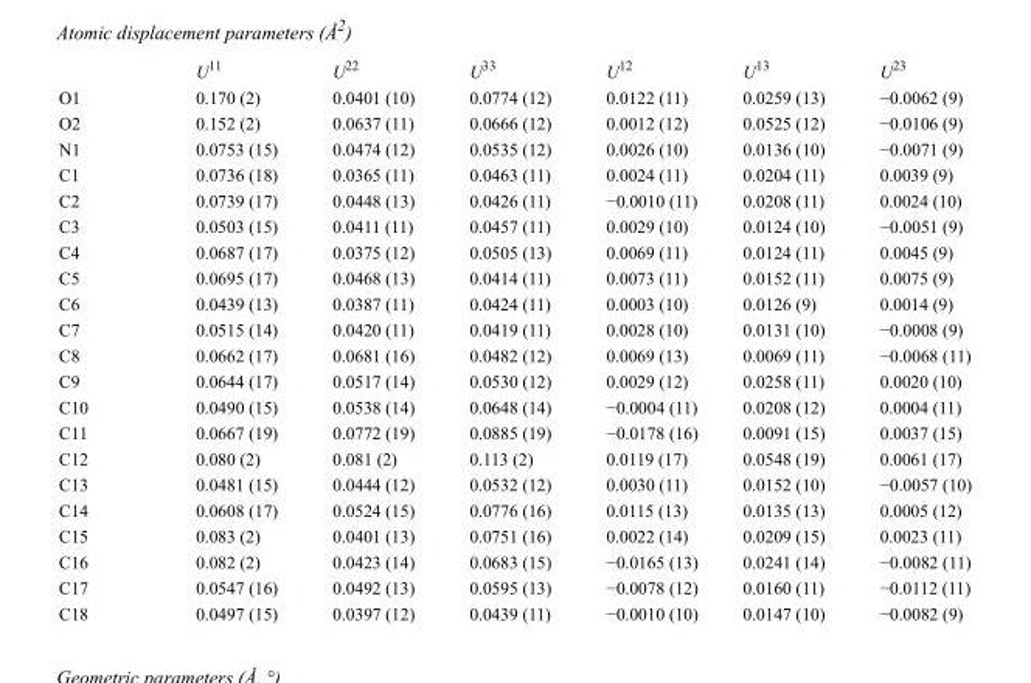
<table><thead><tr><td></td><td>U<sup>11</sup></td><td>U<sup>22</sup></td><td>U<sup>33</sup></td><td>U<sup>12</sup></td><td>U<sup>13</sup></td><td>U<sup>23</sup></td></tr></thead><tbody><tr><td>O1</td><td>0.170 (2)</td><td>0.0401 (10)</td><td>0.0774 (12)</td><td>0.0122 (11)</td><td>0.0259 (13)</td><td>−0.0062 (9)</td></tr><tr><td>O2</td><td>0.152 (2)</td><td>0.0637 (11)</td><td>0.0666 (12)</td><td>0.0012 (12)</td><td>0.0525 (12)</td><td>−0.0106 (9)</td></tr><tr><td>N1</td><td>0.0753 (15)</td><td>0.0474 (12)</td><td>0.0535 (12)</td><td>0.0026 (10)</td><td>0.0136 (10)</td><td>−0.0071 (9)</td></tr><tr><td>C1</td><td>0.0736 (18)</td><td>0.0365 (11)</td><td>0.0463 (11)</td><td>0.0024 (11)</td><td>0.0204 (11)</td><td>0.0039 (9)</td></tr><tr><td>C2</td><td>0.0739 (17)</td><td>0.0448 (13)</td><td>0.0426 (11)</td><td>−0.0010 (11)</td><td>0.0208 (11)</td><td>0.0024 (10)</td></tr><tr><td>C3</td><td>0.0503 (15)</td><td>0.0411 (11)</td><td>0.0457 (11)</td><td>0.0029 (10)</td><td>0.0124 (10)</td><td>−0.0051 (9)</td></tr><tr><td>C4</td><td>0.0687 (17)</td><td>0.0375 (12)</td><td>0.0505 (13)</td><td>0.0069 (11)</td><td>0.0124 (11)</td><td>0.0045 (9)</td></tr><tr><td>C5</td><td>0.0695 (17)</td><td>0.0468 (13)</td><td>0.0414 (11)</td><td>0.0073 (11)</td><td>0.0152 (11)</td><td>0.0075 (9)</td></tr><tr><td>C6</td><td>0.0439 (13)</td><td>0.0387 (11)</td><td>0.0424 (11)</td><td>0.0003 (10)</td><td>0.0126 (9)</td><td>0.0014 (9)</td></tr><tr><td>C7</td><td>0.0515 (14)</td><td>0.0420 (11)</td><td>0.0419 (11)</td><td>0.0028 (10)</td><td>0.0131 (10)</td><td>−0.0008 (9)</td></tr><tr><td>C8</td><td>0.0662 (17)</td><td>0.0681 (16)</td><td>0.0482 (12)</td><td>0.0069 (13)</td><td>0.0069 (11)</td><td>−0.0068 (11)</td></tr><tr><td>C9</td><td>0.0644 (17)</td><td>0.0517 (14)</td><td>0.0530 (12)</td><td>0.0029 (12)</td><td>0.0258 (11)</td><td>0.0020 (10)</td></tr><tr><td>C10</td><td>0.0490 (15)</td><td>0.0538 (14)</td><td>0.0648 (14)</td><td>−0.0004 (11)</td><td>0.0208 (12)</td><td>0.0004 (11)</td></tr><tr><td>C11</td><td>0.0667 (19)</td><td>0.0772 (19)</td><td>0.0885 (19)</td><td>−0.0178 (16)</td><td>0.0091 (15)</td><td>0.0037 (15)</td></tr><tr><td>C12</td><td>0.080 (2)</td><td>0.081 (2)</td><td>0.113 (2)</td><td>0.0119 (17)</td><td>0.0548 (19)</td><td>0.0061 (17)</td></tr><tr><td>C13</td><td>0.0481 (15)</td><td>0.0444 (12)</td><td>0.0532 (12)</td><td>0.0030 (11)</td><td>0.0152 (10)</td><td>−0.0057 (10)</td></tr><tr><td>C14</td><td>0.0608 (17)</td><td>0.0524 (15)</td><td>0.0776 (16)</td><td>0.0115 (13)</td><td>0.0135 (13)</td><td>0.0005 (12)</td></tr><tr><td>C15</td><td>0.083 (2)</td><td>0.0401 (13)</td><td>0.0751 (16)</td><td>0.0022 (14)</td><td>0.0209 (15)</td><td>0.0023 (11)</td></tr><tr><td>C16</td><td>0.082 (2)</td><td>0.0423 (14)</td><td>0.0683 (15)</td><td>−0.0165 (13)</td><td>0.0241 (14)</td><td>−0.0082 (11)</td></tr><tr><td>C17</td><td>0.0547 (16)</td><td>0.0492 (13)</td><td>0.0595 (13)</td><td>−0.0078 (12)</td><td>0.0160 (11)</td><td>−0.0112 (11)</td></tr><tr><td>C18</td><td>0.0497 (15)</td><td>0.0397 (12)</td><td>0.0439 (11)</td><td>−0.0010 (10)</td><td>0.0147 (10)</td><td>−0.0082 (9)</td></tr></tbody></table>